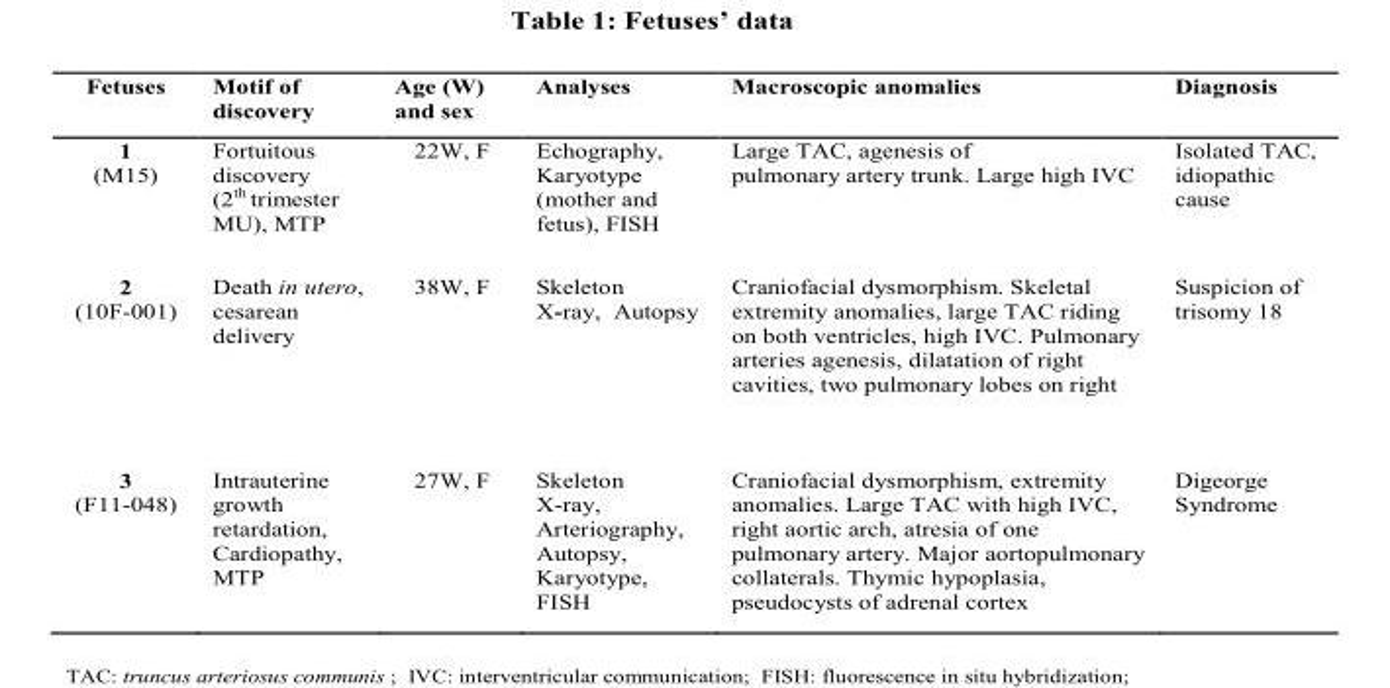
<table><thead><tr><td>Fetuses</td><td>Motif of discovery</td><td>Age (W) and sex</td><td>Analyses</td><td>Macroscopic anomalies</td><td>Diagnosis</td></tr></thead><tbody><tr><td>1 (M15)</td><td>Fortuitous discovery (2<sup>th</sup> trimester MU), MTP</td><td>22W, F</td><td>Echography, Karyotype (mother and fetus), FISH</td><td>Large TAC, agenesis of pulmonary artery trunk. Large high IVC</td><td>Isolated TAC, idiopathic cause</td></tr><tr><td>2 (10F-001)</td><td>Death in utero, cesarean delivery</td><td>38W, F</td><td>Skeleton X-ray, Autopsy</td><td>Craniofacial dysmorphism. Skeletal extremity anomalies, large TAC riding on both ventricles, high IVC. Pulmonary arteries agenesis, dilatation of right cavities, two pulmonary lobes on right</td><td>Suspicion of trisomy 18</td></tr><tr><td>3 (F11-048)</td><td>Intrauterine growth retardation, Cardiopathy, MTP</td><td>27W, F</td><td>Skeleton X-ray, Arteriography, Autopsy, Karyotype, FISH</td><td>Craniofacial dysmorphism, extremity anomalies. Large TAC with high IVC, right aortic arch, atresia of one pulmonary artery. Major aortopulmonary collaterals. Thymic hypoplasia, pseudocysts of adrenal cortex</td><td>Digeorge Syndrome</td></tr></tbody></table>